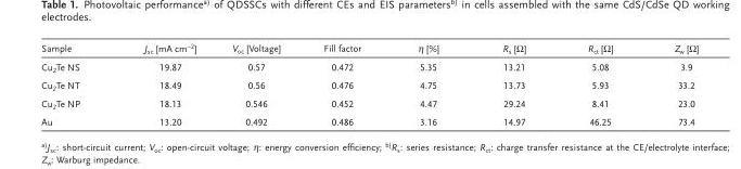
<table><thead><tr><td>Sample</td><td>J <sub>sc</sub> [mA cm <sup>−2</sup> ]</td><td>V <sub>oc</sub> [Voltage]</td><td>Fill factor</td><td>η [%]</td><td>R <sub>s</sub> [Ω]</td><td>R <sub>ct</sub> [Ω]</td><td>Z <sub>w</sub> [Ω]</td></tr></thead><tbody><tr><td>Cu <sub>2</sub> Te NS</td><td>19.87</td><td>0.57</td><td>0.472</td><td>5.35</td><td>13.21</td><td>5.08</td><td>3.9</td></tr><tr><td>Cu <sub>2</sub> Te NT</td><td>18.49</td><td>0.56</td><td>0.476</td><td>4.75</td><td>13.73</td><td>5.93</td><td>33.2</td></tr><tr><td>Cu <sub>2</sub> Te NP</td><td>18.13</td><td>0.546</td><td>0.452</td><td>4.47</td><td>29.24</td><td>8.41</td><td>23.0</td></tr><tr><td>Au</td><td>13.20</td><td>0.492</td><td>0.486</td><td>3.16</td><td>14.97</td><td>46.25</td><td>73.4</td></tr></tbody></table>